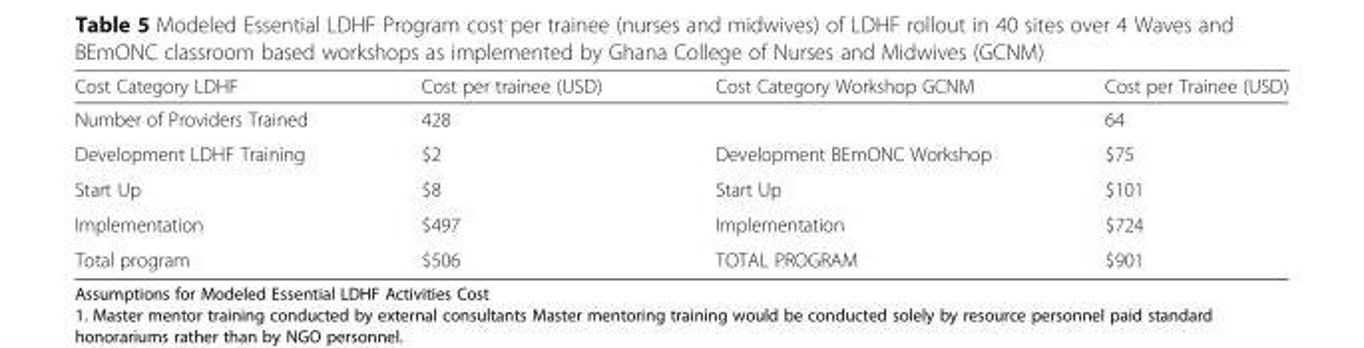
<table><thead><tr><td>Cost Category LDHF</td><td>Cost per trainee (USD)</td><td>Cost Category Workshop GCNM</td><td>Cost per Trainee (USD)</td></tr></thead><tbody><tr><td>Number of Providers Trained</td><td>428</td><td></td><td>64</td></tr><tr><td>Development LDHF Training</td><td>$2</td><td>Development BEmONC Workshop</td><td>$75</td></tr><tr><td>Start Up</td><td>$8</td><td>Start Up</td><td>$101</td></tr><tr><td>Implementation</td><td>$497</td><td>Implementation</td><td>$724</td></tr><tr><td>Total program</td><td>$506</td><td>TOTAL PROGRAM</td><td>$901</td></tr></tbody></table>